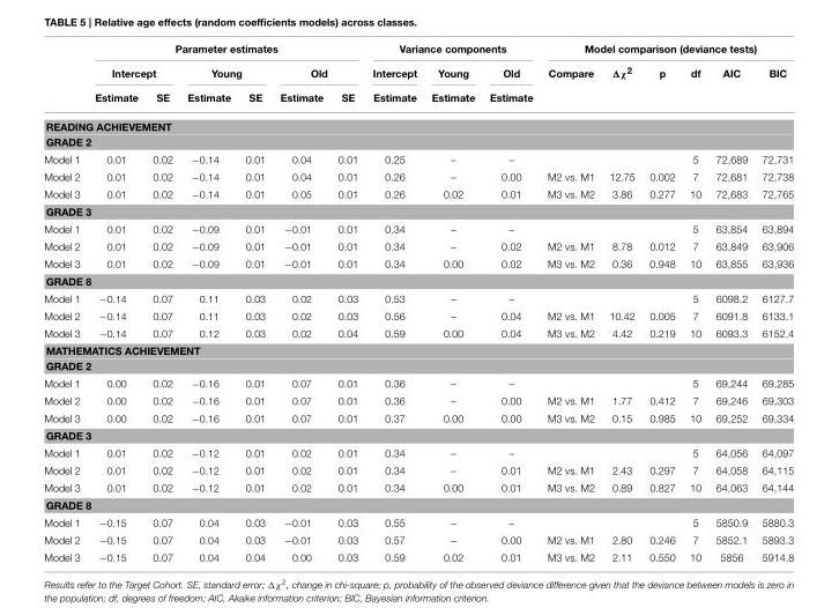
<table><thead><tr><td rowspan="3"></td><td colspan="6">Parameter estimates</td><td colspan="3">Variance components</td><td colspan="6">Model comparison (deviance tests)</td></tr><tr><td colspan="2">Intercept</td><td colspan="2">Young</td><td colspan="2">Old</td><td rowspan="2">Intercept Estimate</td><td rowspan="2">Young Estimate</td><td rowspan="2">Old Estimate</td><td rowspan="2">Compare</td><td rowspan="2">Δχ<sup>2</sup></td><td rowspan="2">p</td><td rowspan="2">df</td><td rowspan="2">AIC</td><td rowspan="2">BIC</td></tr><tr><td>Estimate</td><td>SE</td><td>Estimate</td><td>SE</td><td>Estimate</td><td>SE</td></tr></thead><tbody><tr><td colspan="16">READING ACHIEVEMENT</td></tr><tr><td colspan="16">GRADE 2</td></tr><tr><td>Model 1</td><td>0.01</td><td>0.02</td><td>−0.14</td><td>0.01</td><td>0.04</td><td>0.01</td><td>0.25</td><td>–</td><td>–</td><td></td><td></td><td></td><td>5</td><td>72,689</td><td>72,731</td></tr><tr><td>Model 2</td><td>0.01</td><td>0.02</td><td>−0.14</td><td>0.01</td><td>0.04</td><td>0.01</td><td>0.26</td><td>–</td><td>0.00</td><td>M2 vs. M1</td><td>12.75</td><td>0.002</td><td>7</td><td>72,681</td><td>72,738</td></tr><tr><td>Model 3</td><td>0.01</td><td>0.02</td><td>−0.14</td><td>0.01</td><td>0.05</td><td>0.01</td><td>0.26</td><td>0.02</td><td>0.01</td><td>M3 vs. M2</td><td>3.86</td><td>0.277</td><td>10</td><td>72,683</td><td>72,765</td></tr><tr><td colspan="16">GRADE 3</td></tr><tr><td>Model 1</td><td>0.01</td><td>0.02</td><td>−0.09</td><td>0.01</td><td>−0.01</td><td>0.01</td><td>0.34</td><td>–</td><td>–</td><td></td><td></td><td></td><td>5</td><td>63,854</td><td>63,894</td></tr><tr><td>Model 2</td><td>0.01</td><td>0.02</td><td>−0.09</td><td>0.01</td><td>−0.01</td><td>0.01</td><td>0.34</td><td>–</td><td>0.02</td><td>M2 vs. M1</td><td>8.78</td><td>0.012</td><td>7</td><td>63,849</td><td>63,906</td></tr><tr><td>Model 3</td><td>0.01</td><td>0.02</td><td>−0.09</td><td>0.01</td><td>−0.01</td><td>0.01</td><td>0.34</td><td>0.00</td><td>0.02</td><td>M3 vs. M2</td><td>0.36</td><td>0.948</td><td>10</td><td>63,855</td><td>63,936</td></tr><tr><td colspan="16">GRADE 8</td></tr><tr><td>Model 1</td><td>−0.14</td><td>0.07</td><td>0.11</td><td>0.03</td><td>0.02</td><td>0.03</td><td>0.53</td><td>–</td><td>–</td><td></td><td></td><td></td><td>5</td><td>6098.2</td><td>6127.7</td></tr><tr><td>Model 2</td><td>−0.14</td><td>0.07</td><td>0.11</td><td>0.03</td><td>0.02</td><td>0.03</td><td>0.56</td><td>–</td><td>0.04</td><td>M2 vs. M1</td><td>10.42</td><td>0.005</td><td>7</td><td>6091.8</td><td>6133.1</td></tr><tr><td>Model 3</td><td>−0.14</td><td>0.07</td><td>0.12</td><td>0.03</td><td>0.02</td><td>0.04</td><td>0.59</td><td>0.00</td><td>0.04</td><td>M3 vs. M2</td><td>4.42</td><td>0.219</td><td>10</td><td>6093.3</td><td>6152.4</td></tr><tr><td colspan="16">MATHEMATICS ACHIEVEMENT</td></tr><tr><td colspan="16">GRADE 2</td></tr><tr><td>Model 1</td><td>0.00</td><td>0.02</td><td>−0.16</td><td>0.01</td><td>0.07</td><td>0.01</td><td>0.36</td><td>–</td><td>–</td><td></td><td></td><td></td><td>5</td><td>69,244</td><td>69,285</td></tr><tr><td>Model 2</td><td>0.00</td><td>0.02</td><td>−0.16</td><td>0.01</td><td>0.07</td><td>0.01</td><td>0.36</td><td>–</td><td>0.00</td><td>M2 vs. M1</td><td>1.77</td><td>0.412</td><td>7</td><td>69,246</td><td>69,303</td></tr><tr><td>Model 3</td><td>0.00</td><td>0.02</td><td>−0.16</td><td>0.01</td><td>0.07</td><td>0.01</td><td>0.37</td><td>0.00</td><td>0.00</td><td>M3 vs. M2</td><td>0.15</td><td>0.985</td><td>10</td><td>69,252</td><td>69,334</td></tr><tr><td colspan="16">GRADE 3</td></tr><tr><td>Model 1</td><td>0.01</td><td>0.02</td><td>−0.12</td><td>0.01</td><td>0.02</td><td>0.01</td><td>0.34</td><td>–</td><td>–</td><td></td><td></td><td></td><td>5</td><td>64,056</td><td>64,097</td></tr><tr><td>Model 2</td><td>0.01</td><td>0.02</td><td>−0.12</td><td>0.01</td><td>0.02</td><td>0.01</td><td>0.34</td><td>–</td><td>0.01</td><td>M2 vs. M1</td><td>2.43</td><td>0.297</td><td>7</td><td>64,058</td><td>64,115</td></tr><tr><td>Model 3</td><td>0.01</td><td>0.02</td><td>−0.12</td><td>0.01</td><td>0.02</td><td>0.01</td><td>0.34</td><td>0.00</td><td>0.01</td><td>M3 vs. M2</td><td>0.89</td><td>0.827</td><td>10</td><td>64,063</td><td>64,144</td></tr><tr><td colspan="16">GRADE 8</td></tr><tr><td>Model 1</td><td>−0.15</td><td>0.07</td><td>0.04</td><td>0.03</td><td>−0.01</td><td>0.03</td><td>0.55</td><td>–</td><td>–</td><td></td><td></td><td></td><td>5</td><td>5850.9</td><td>5880.3</td></tr><tr><td>Model 2</td><td>−0.15</td><td>0.07</td><td>0.04</td><td>0.03</td><td>−0.01</td><td>0.03</td><td>0.57</td><td>–</td><td>0.00</td><td>M2 vs. M1</td><td>2.80</td><td>0.246</td><td>7</td><td>5852.1</td><td>5893.3</td></tr><tr><td>Model 3</td><td>−0.15</td><td>0.07</td><td>0.04</td><td>0.04</td><td>0.00</td><td>0.03</td><td>0.59</td><td>0.02</td><td>0.01</td><td>M3 vs. M2</td><td>2.11</td><td>0.550</td><td>10</td><td>5856</td><td>5914.8</td></tr></tbody></table>